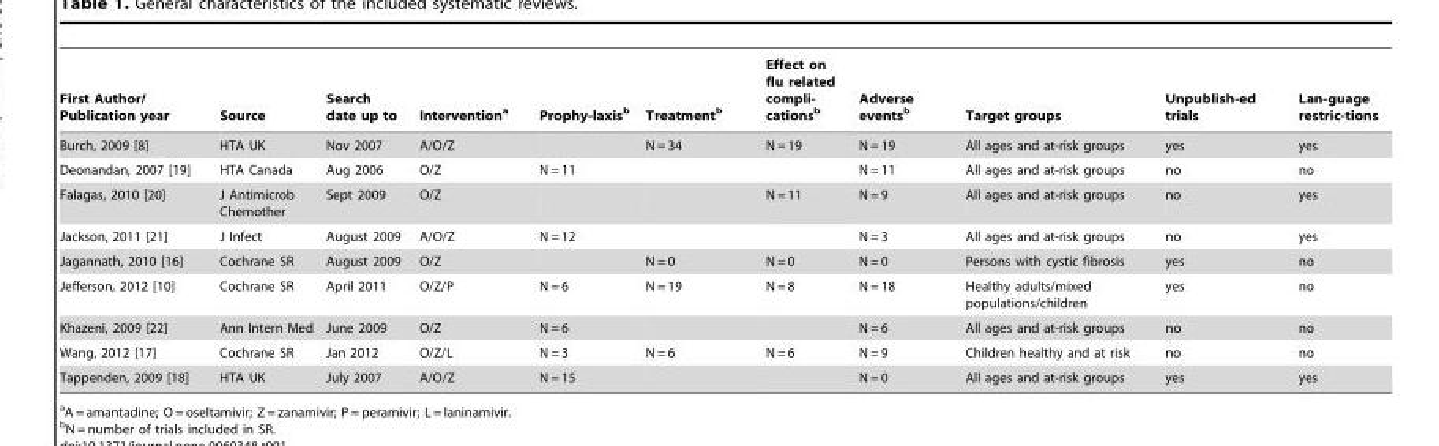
<table><thead><tr><td>First Author/ Publication year</td><td>Source</td><td>Search date up to</td><td>Intervention<sup>a</sup></td><td>Prophy-laxis<sup>b</sup></td><td>Treatment<sup>b</sup></td><td>Effect on flu related compli- cations<sup>b</sup></td><td>Adverse events<sup>b</sup></td><td>Target groups</td><td>Unpublish-ed trials</td><td>Lan-guage restric-tions</td></tr></thead><tbody><tr><td>Burch, 2009 [8]</td><td>HTA UK</td><td>Nov 2007</td><td>A/O/Z</td><td></td><td>N = 34</td><td>N = 19</td><td>N = 19</td><td>All ages and at-risk groups</td><td>yes</td><td>yes</td></tr><tr><td>Deonandan, 2007 [19]</td><td>HTA Canada</td><td>Aug 2006</td><td>O/Z</td><td>N = 11</td><td></td><td></td><td>N = 11</td><td>All ages and at-risk groups</td><td>no</td><td>no</td></tr><tr><td>Falagas, 2010 [20]</td><td>J Antimicrob Chemother</td><td>Sept 2009</td><td>O/Z</td><td></td><td></td><td>N = 11</td><td>N = 9</td><td>All ages and at-risk groups</td><td>no</td><td>yes</td></tr><tr><td>Jackson, 2011 [21]</td><td>J Infect</td><td>August 2009</td><td>A/O/Z</td><td>N = 12</td><td></td><td></td><td>N = 3</td><td>All ages and at-risk groups</td><td>no</td><td>yes</td></tr><tr><td>Jagannath, 2010 [16]</td><td>Cochrane SR</td><td>August 2009</td><td>O/Z</td><td></td><td>N = 0</td><td>N = 0</td><td>N = 0</td><td>Persons with cystic fibrosis</td><td>yes</td><td>no</td></tr><tr><td>Jefferson, 2012 [10]</td><td>Cochrane SR</td><td>April 2011</td><td>O/Z/P</td><td>N = 6</td><td>N = 19</td><td>N = 8</td><td>N = 18</td><td>Healthy adults/mixed populations/children</td><td>yes</td><td>no</td></tr><tr><td>Khazeni, 2009 [22]</td><td>Ann Intern Med</td><td>June 2009</td><td>O/Z</td><td>N = 6</td><td></td><td></td><td>N = 6</td><td>All ages and at-risk groups</td><td>no</td><td>no</td></tr><tr><td>Wang, 2012 [17]</td><td>Cochrane SR</td><td>Jan 2012</td><td>O/Z/L</td><td>N = 3</td><td>N = 6</td><td>N = 6</td><td>N = 9</td><td>Children healthy and at risk</td><td>no</td><td>no</td></tr><tr><td>Tappenden, 2009 [18]</td><td>HTA UK</td><td>July 2007</td><td>A/O/Z</td><td>N = 15</td><td></td><td></td><td>N = 0</td><td>All ages and at-risk groups</td><td>yes</td><td>yes</td></tr></tbody></table>